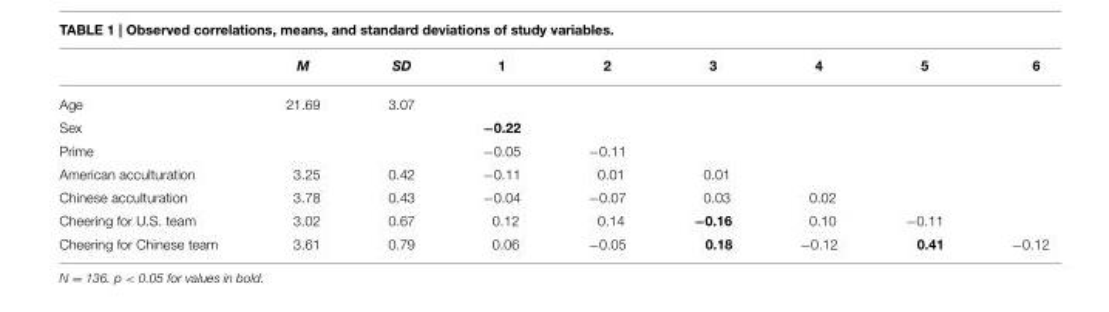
<table><thead><tr><td></td><td>M</td><td>SD</td><td>1</td><td>2</td><td>3</td><td>4</td><td>5</td><td>6</td></tr></thead><tbody><tr><td>Age</td><td>21.69</td><td>3.07</td><td></td><td></td><td></td><td></td><td></td><td></td></tr><tr><td>Sex</td><td></td><td></td><td>−0.22</td><td></td><td></td><td></td><td></td><td></td></tr><tr><td>Prime</td><td></td><td></td><td>−0.05</td><td>−0.11</td><td></td><td></td><td></td><td></td></tr><tr><td>American acculturation</td><td>3.25</td><td>0.42</td><td>−0.11</td><td>0.01</td><td>0.01</td><td></td><td></td><td></td></tr><tr><td>Chinese acculturation</td><td>3.78</td><td>0.43</td><td>−0.04</td><td>−0.07</td><td>0.03</td><td>0.02</td><td></td><td></td></tr><tr><td>Cheering for U.S. team</td><td>3.02</td><td>0.67</td><td>0.12</td><td>0.14</td><td>−0.16</td><td>0.10</td><td>−0.11</td><td></td></tr><tr><td>Cheering for Chinese team</td><td>3.61</td><td>0.79</td><td>0.06</td><td>−0.05</td><td>0.18</td><td>−0.12</td><td>0.41</td><td>−0.12</td></tr></tbody></table>